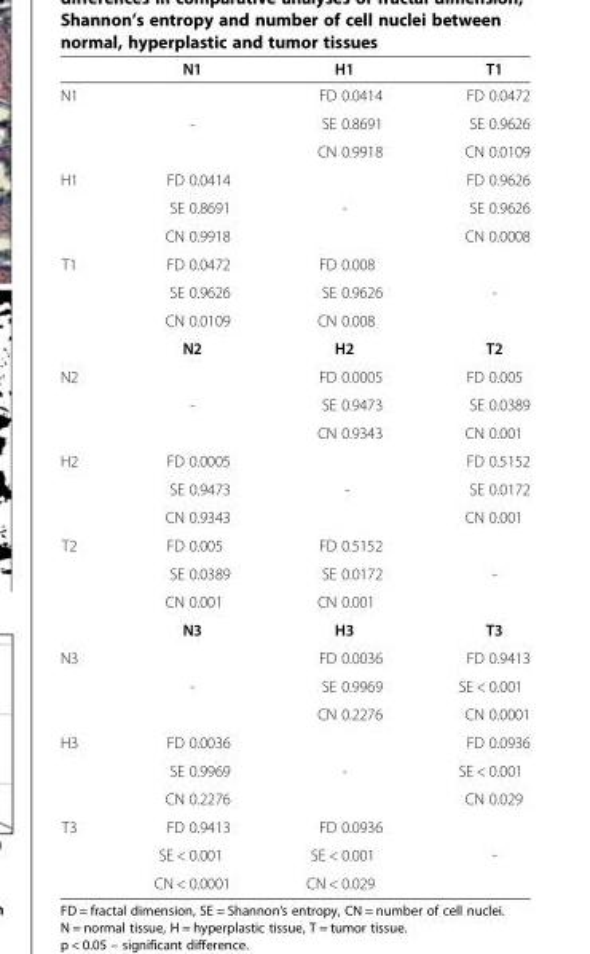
<table><thead><tr><td></td><td>N1</td><td>H1</td><td>T1</td></tr></thead><tbody><tr><td rowspan="3">N1</td><td></td><td>FD 0.0414</td><td>FD 0.0472</td></tr><tr><td>-</td><td>SE 0.8691</td><td>SE 0.9626</td></tr><tr><td></td><td>CN 0.9918</td><td>CN 0.0109</td></tr><tr><td rowspan="3">H1</td><td>FD 0.0414</td><td></td><td>FD 0.9626</td></tr><tr><td>SE 0.8691</td><td>-</td><td>SE 0.9626</td></tr><tr><td>CN 0.9918</td><td></td><td>CN 0.0008</td></tr><tr><td rowspan="4">T1</td><td>FD 0.0472</td><td>FD 0.008</td><td></td></tr><tr><td>SE 0.9626</td><td>SE 0.9626</td><td>-</td></tr><tr><td>CN 0.0109</td><td>CN 0.008</td><td></td></tr><tr><td>N2</td><td>H2</td><td>T2</td></tr><tr><td rowspan="3">N2</td><td></td><td>FD 0.0005</td><td>FD 0.005</td></tr><tr><td>-</td><td>SE 0.9473</td><td>SE 0.0389</td></tr><tr><td></td><td>CN 0.9343</td><td>CN 0.001</td></tr><tr><td rowspan="3">H2</td><td>FD 0.0005</td><td></td><td>FD 0.5152</td></tr><tr><td>SE 0.9473</td><td>-</td><td>SE 0.0172</td></tr><tr><td>CN 0.9343</td><td></td><td>CN 0.001</td></tr><tr><td rowspan="4">T2</td><td>FD 0.005</td><td>FD 0.5152</td><td></td></tr><tr><td>SE 0.0389</td><td>SE 0.0172</td><td>-</td></tr><tr><td>CN 0.001</td><td>CN 0.001</td><td></td></tr><tr><td>N3</td><td>H3</td><td>T3</td></tr><tr><td rowspan="3">N3</td><td></td><td>FD 0.0036</td><td>FD 0.9413</td></tr><tr><td>-</td><td>SE 0.9969</td><td>SE &lt; 0.001</td></tr><tr><td></td><td>CN 0.2276</td><td>CN 0.0001</td></tr><tr><td rowspan="3">H3</td><td>FD 0.0036</td><td></td><td>FD 0.0936</td></tr><tr><td>SE 0.9969</td><td>-</td><td>SE &lt; 0.001</td></tr><tr><td>CN 0.2276</td><td></td><td>CN 0.029</td></tr><tr><td rowspan="3">T3</td><td>FD 0.9413</td><td>FD 0.0936</td><td></td></tr><tr><td>SE &lt; 0.001</td><td>SE &lt; 0.001</td><td>-</td></tr><tr><td>CN &lt; 0.0001</td><td>CN &lt; 0.029</td><td></td></tr></tbody></table>